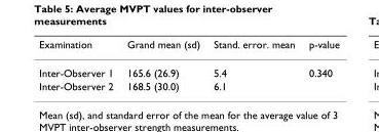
<table><thead><tr><td>Examination</td><td>Grand mean (sd)</td><td>Stand. error. mean</td><td>p-value</td></tr></thead><tbody><tr><td>Inter-Observer 1</td><td>165.6 (26.9)</td><td>5.4</td><td>0.340</td></tr><tr><td>Inter-Observer 2</td><td>168.5 (30.0)</td><td>6.1</td><td></td></tr></tbody></table>